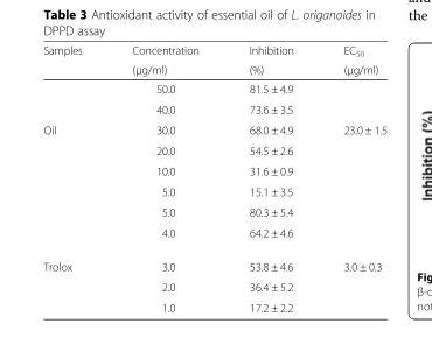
<table><thead><tr><td rowspan="2">Samples</td><td rowspan="2">Concentration (μg/ml)</td><td rowspan="2">Inhibition (%)</td><td rowspan="2">EC<sub>50</sub> (μg/ml)</td></tr><tr></tr></thead><tbody><tr><td></td><td>50.0</td><td>81.5 ± 4.9</td><td></td></tr><tr><td></td><td>40.0</td><td>73.6 ± 3.5</td><td></td></tr><tr><td rowspan="6">Oil</td><td>30.0</td><td>68.0 ± 4.9</td><td>23.0 ± 1.5</td></tr><tr><td>20.0</td><td>54.5 ± 2.6</td><td></td></tr><tr><td>10.0</td><td>31.6 ± 0.9</td><td></td></tr><tr><td>5.0</td><td>15.1 ± 3.5</td><td></td></tr><tr><td>5.0</td><td>80.3 ± 5.4</td><td></td></tr><tr><td>4.0</td><td>64.2 ± 4.6</td><td></td></tr><tr><td rowspan="3">Trolox</td><td>3.0</td><td>53.8 ± 4.6</td><td>3.0 ± 0.3</td></tr><tr><td>2.0</td><td>36.4 ± 5.2</td><td></td></tr><tr><td>1.0</td><td>17.2 ± 2.2</td><td></td></tr></tbody></table>